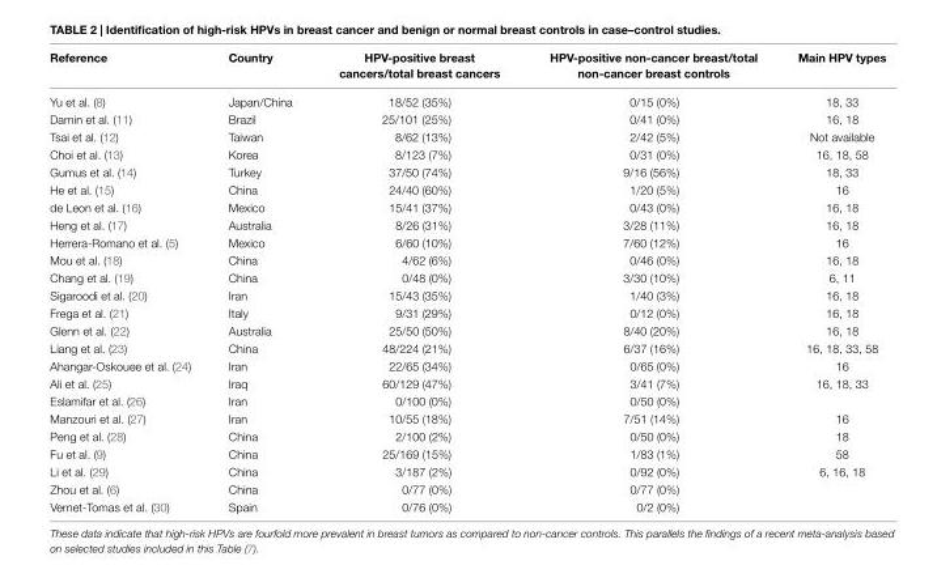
<table><thead><tr><td>Reference</td><td>Country</td><td>HPv-positive breast cancers/total breast cancers</td><td>HPv-positive non-cancer breast/total non-cancer breast controls</td><td>Main HPv types</td></tr></thead><tbody><tr><td>Yu et al. (8)</td><td>Japan/China</td><td>18/52 (35%)</td><td>0/15 (0%)</td><td>18, 33</td></tr><tr><td>Damin et al. (11)</td><td>Brazil</td><td>25/101 (25%)</td><td>0/41 (0%)</td><td>16, 18</td></tr><tr><td>Tsai et al. (12)</td><td>Taiwan</td><td>8/62 (13%)</td><td>2/42 (5%)</td><td>Not available</td></tr><tr><td>Choi et al. (13)</td><td>Korea</td><td>8/123 (7%)</td><td>0/31 (0%)</td><td>16, 18, 58</td></tr><tr><td>Gumus et al. (14)</td><td>Turkey</td><td>37/50 (74%)</td><td>9/16 (56%)</td><td>18, 33</td></tr><tr><td>He et al. (15)</td><td>China</td><td>24/40 (60%)</td><td>1/20 (5%)</td><td>16</td></tr><tr><td>de Leon et al. (16)</td><td>Mexico</td><td>15/41 (37%)</td><td>0/43 (0%)</td><td>16, 18</td></tr><tr><td>Heng et al. (17)</td><td>Australia</td><td>8/26 (31%)</td><td>3/28 (11%)</td><td>16, 18</td></tr><tr><td>Herrera-Romano et al. (5)</td><td>Mexico</td><td>6/60 (10%)</td><td>7/60 (12%)</td><td>16</td></tr><tr><td>Mou et al. (18)</td><td>China</td><td>4/62 (6%)</td><td>0/46 (0%)</td><td>16, 18</td></tr><tr><td>Chang et al. (19)</td><td>China</td><td>0/48 (0%)</td><td>3/30 (10%)</td><td>6, 11</td></tr><tr><td>Sigaroodi et al. (20)</td><td>Iran</td><td>15/43 (35%)</td><td>1/40 (3%)</td><td>16, 18</td></tr><tr><td>Frega et al. (21)</td><td>Italy</td><td>9/31 (29%)</td><td>0/12 (0%)</td><td>16, 18</td></tr><tr><td>Glenn et al. (22)</td><td>Australia</td><td>25/50 (50%)</td><td>8/40 (20%)</td><td>16, 18</td></tr><tr><td>Liang et al. (23)</td><td>China</td><td>48/224 (21%)</td><td>6/37 (16%)</td><td>16, 18, 33, 58</td></tr><tr><td>Ahangar-Oskouee et al. (24)</td><td>Iran</td><td>22/65 (34%)</td><td>0/65 (0%)</td><td>16</td></tr><tr><td>Ali et al. (25)</td><td>Iraq</td><td>60/129 (47%)</td><td>3/41 (7%)</td><td>16, 18, 33</td></tr><tr><td>Eslamifar et al. (26)</td><td>Iran</td><td>0/100 (0%)</td><td>0/50 (0%)</td><td></td></tr><tr><td>Manzouri et al. (27)</td><td>Iran</td><td>10/55 (18%)</td><td>7/51 (14%)</td><td>16</td></tr><tr><td>Peng et al. (28)</td><td>China</td><td>2/100 (2%)</td><td>0/50 (0%)</td><td>18</td></tr><tr><td>Fu et al. (9)</td><td>China</td><td>25/169 (15%)</td><td>1/83 (1%)</td><td>58</td></tr><tr><td>Li et al. (29)</td><td>China</td><td>3/187 (2%)</td><td>0/92 (0%)</td><td>6, 16, 18</td></tr><tr><td>Zhou et al. (6)</td><td>China</td><td>0/77 (0%)</td><td>0/77 (0%)</td><td></td></tr><tr><td>Vernet-Tomas et al. (30)</td><td>Spain</td><td>0/76 (0%)</td><td>0/2 (0%)</td><td></td></tr></tbody></table>